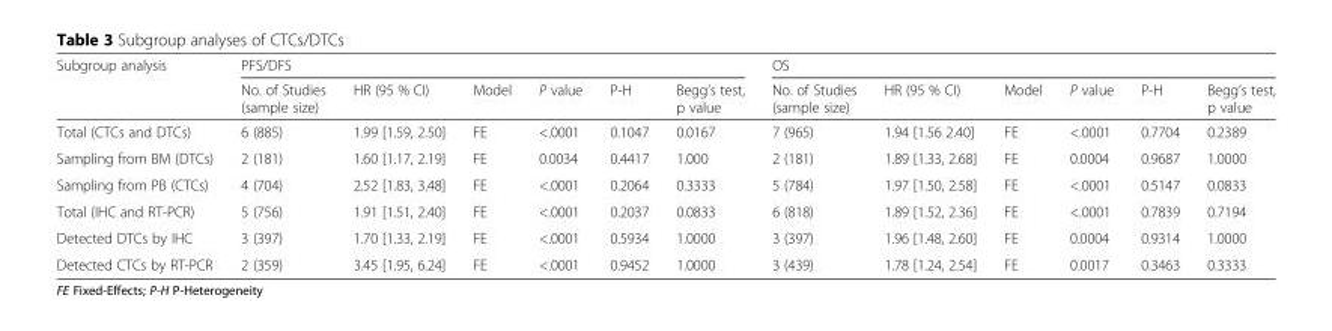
<table><thead><tr><td rowspan="2">Subgroup analysis</td><td colspan="6">PFS/DFS</td><td colspan="6">OS</td></tr><tr><td>No. of Studies (sample size)</td><td>HR (95 % CI)</td><td>Model</td><td>P value</td><td>P-H</td><td>Begg’s test, p value</td><td>No. of Studies (sample size)</td><td>HR (95 % CI)</td><td>Model</td><td>P value</td><td>P-H</td><td>Begg’s test, p value</td></tr></thead><tbody><tr><td>Total (CTCs and DTCs)</td><td>6 (885)</td><td>1.99 [1.59, 2.50]</td><td>FE</td><td>&lt;.0001</td><td>0.1047</td><td>0.0167</td><td>7 (965)</td><td>1.94 [1.56 2.40]</td><td>FE</td><td>&lt;.0001</td><td>0.7704</td><td>0.2389</td></tr><tr><td>Sampling from BM (DTCs)</td><td>2 (181)</td><td>1.60 [1.17, 2.19]</td><td>FE</td><td>0.0034</td><td>0.4417</td><td>1.000</td><td>2 (181)</td><td>1.89 [1.33, 2.68]</td><td>FE</td><td>0.0004</td><td>0.9687</td><td>1.0000</td></tr><tr><td>Sampling from PB (CTCs)</td><td>4 (704)</td><td>2.52 [1.83, 3.48]</td><td>FE</td><td>&lt;.0001</td><td>0.2064</td><td>0.3333</td><td>5 (784)</td><td>1.97 [1.50, 2.58]</td><td>FE</td><td>&lt;.0001</td><td>0.5147</td><td>0.0833</td></tr><tr><td>Total (IHC and RT-PCR)</td><td>5 (756)</td><td>1.91 [1.51, 2.40]</td><td>FE</td><td>&lt;.0001</td><td>0.2037</td><td>0.0833</td><td>6 (818)</td><td>1.89 [1.52, 2.36]</td><td>FE</td><td>&lt;.0001</td><td>0.7839</td><td>0.7194</td></tr><tr><td>Detected DTCs by IHC</td><td>3 (397)</td><td>1.70 [1.33, 2.19]</td><td>FE</td><td>&lt;.0001</td><td>0.5934</td><td>1.0000</td><td>3 (397)</td><td>1.96 [1.48, 2.60]</td><td>FE</td><td>0.0004</td><td>0.9314</td><td>1.0000</td></tr><tr><td>Detected CTCs by RT-PCR</td><td>2 (359)</td><td>3.45 [1.95, 6.24]</td><td>FE</td><td>&lt;.0001</td><td>0.9452</td><td>1.0000</td><td>3 (439)</td><td>1.78 [1.24, 2.54]</td><td>FE</td><td>0.0017</td><td>0.3463</td><td>0.3333</td></tr></tbody></table>